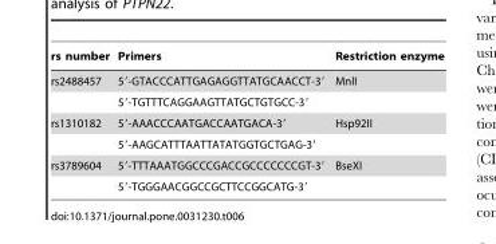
<table><thead><tr><td>rs number</td><td>Primers</td><td>Restriction enzyme</td></tr></thead><tbody><tr><td rowspan="2">rs2488457</td><td>5′-GTACCCATTGAGAGGTTATGCAACCT-3′</td><td>MnlI</td></tr><tr><td>5′-TGTTTCAGGAAGTTATGCTGTGCC-3′</td><td></td></tr><tr><td rowspan="2">rs1310182</td><td>5′-AAACCCAATGACCAATGACA-3′</td><td>Hsp92II</td></tr><tr><td>5′-AAGCATTTAATTATATGGTGCTGAG-3′</td><td></td></tr><tr><td rowspan="2">rs3789604</td><td>5′-TTTAAATGGCCCGACCGCCCCCCCGT-3′</td><td>BseXI</td></tr><tr><td>5′-TGGGAACGGCCGCTTCCGGCATG-3′</td><td></td></tr></tbody></table>